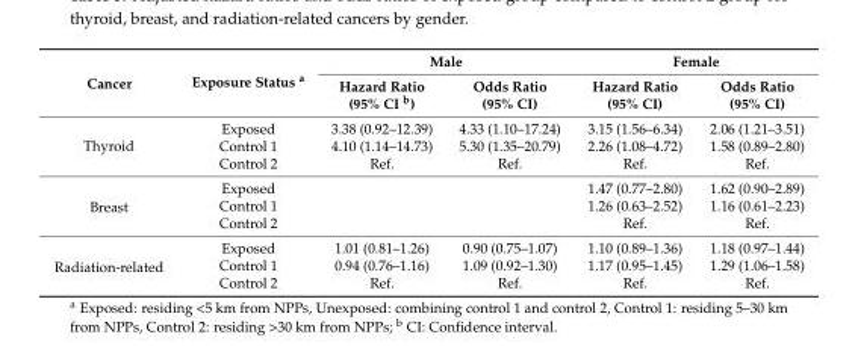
<table><thead><tr><td rowspan="2">Cancer</td><td rowspan="2">Exposure Status <sup>a</sup></td><td colspan="2">Male</td><td colspan="2">Female</td></tr><tr><td>Hazard Ratio (95% CI <sup>b</sup>)</td><td>Odds Ratio (95% CI)</td><td>Hazard Ratio (95% CI)</td><td>Odds Ratio (95% CI)</td></tr></thead><tbody><tr><td rowspan="3">Thyroid</td><td>Exposed</td><td>3.38 (0.92–12.39)</td><td>4.33 (1.10–17.24)</td><td>3.15 (1.56–6.34)</td><td>2.06 (1.21–3.51)</td></tr><tr><td>Control 1</td><td>4.10 (1.14–14.73)</td><td>5.30 (1.35–20.79)</td><td>2.26 (1.08–4.72)</td><td>1.58 (0.89–2.80)</td></tr><tr><td>Control 2</td><td>Ref.</td><td>Ref.</td><td>Ref.</td><td>Ref.</td></tr><tr><td rowspan="3">Breast</td><td>Exposed</td><td></td><td></td><td>1.47 (0.77–2.80)</td><td>1.62 (0.90–2.89)</td></tr><tr><td>Control 1</td><td></td><td></td><td>1.26 (0.63–2.52)</td><td>1.16 (0.61–2.23)</td></tr><tr><td>Control 2</td><td></td><td></td><td>Ref.</td><td>Ref.</td></tr><tr><td rowspan="3">Radiation-related</td><td>Exposed</td><td>1.01 (0.81–1.26)</td><td>0.90 (0.75–1.07)</td><td>1.10 (0.89–1.36)</td><td>1.18 (0.97–1.44)</td></tr><tr><td>Control 1</td><td>0.94 (0.76–1.16)</td><td>1.09 (0.92–1.30)</td><td>1.17 (0.95–1.45)</td><td>1.29 (1.06–1.58)</td></tr><tr><td>Control 2</td><td>Ref.</td><td>Ref.</td><td>Ref.</td><td>Ref.</td></tr></tbody></table>